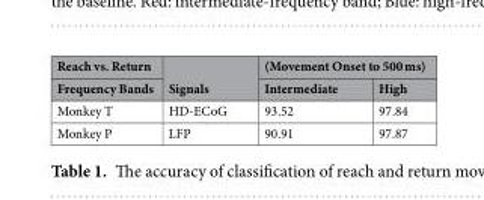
<table><thead><tr><td rowspan="2">Reach vs. Return Frequency Bands</td><td rowspan="2">Signals</td><td colspan="2">(Movement Onset to 500 ms)</td></tr><tr><td>Intermediate</td><td>High</td></tr></thead><tbody><tr><td>Monkey T</td><td>HD-ECoG</td><td>93.52</td><td>97.84</td></tr><tr><td>Monkey P</td><td>LFP</td><td>90.91</td><td>97.87</td></tr></tbody></table>